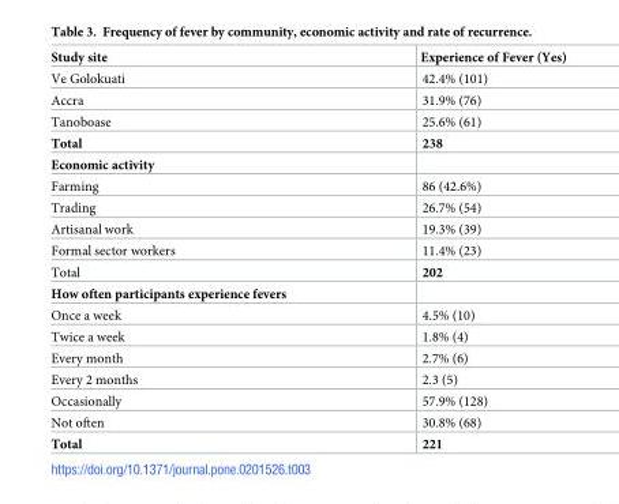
<table><thead><tr><td>Study site</td><td>Experience of Fever (Yes)</td></tr></thead><tbody><tr><td>Ve Golokuati</td><td>42.4% (101)</td></tr><tr><td>Accra</td><td>31.9% (76)</td></tr><tr><td>Tanoboase</td><td>25.6% (61)</td></tr><tr><td>Total</td><td>238</td></tr><tr><td colspan="2">Economic activity</td></tr><tr><td>Farming</td><td>86 (42.6%)</td></tr><tr><td>Trading</td><td>26.7% (54)</td></tr><tr><td>Artisanal work</td><td>19.3% (39)</td></tr><tr><td>Formal sector workers</td><td>11.4% (23)</td></tr><tr><td>Total</td><td>202</td></tr><tr><td colspan="2">How often participants experience fevers</td></tr><tr><td>Once a week</td><td>4.5% (10)</td></tr><tr><td>Twice a week</td><td>1.8% (4)</td></tr><tr><td>Every month</td><td>2.7% (6)</td></tr><tr><td>Every 2 months</td><td>2.3 (5)</td></tr><tr><td>Occasionally</td><td>57.9% (128)</td></tr><tr><td>Not often</td><td>30.8% (68)</td></tr><tr><td>Total</td><td>221</td></tr></tbody></table>